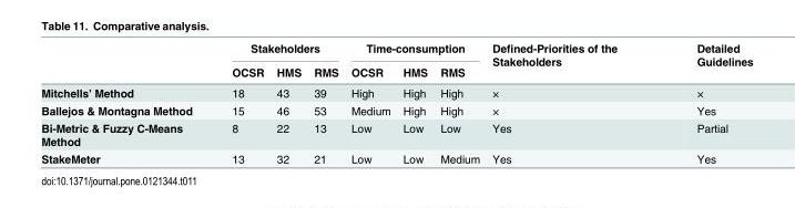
<table><thead><tr><td rowspan="2"></td><td colspan="3">Stakeholders</td><td colspan="3">Time-consumption</td><td rowspan="2">Defined-Priorities of the Stakeholders</td><td rowspan="2">Detailed Guidelines</td></tr><tr><td>OCSR</td><td>HMS</td><td>RMS</td><td>OCSR</td><td>HMS</td><td>RMS</td></tr></thead><tbody><tr><td>Mitchells’ Method</td><td>18</td><td>43</td><td>39</td><td>High</td><td>High</td><td>High</td><td>×</td><td>×</td></tr><tr><td>Ballejos &amp; Montagna Method</td><td>15</td><td>46</td><td>53</td><td>Medium</td><td>High</td><td>High</td><td>×</td><td>Yes</td></tr><tr><td>Bi-Metric &amp; Fuzzy C-Means Method</td><td>8</td><td>22</td><td>13</td><td>Low</td><td>Low</td><td>Low</td><td>Yes</td><td>Partial</td></tr><tr><td>StakeMeter</td><td>13</td><td>32</td><td>21</td><td>Low</td><td>Low</td><td>Medium</td><td>Yes</td><td>Yes</td></tr></tbody></table>